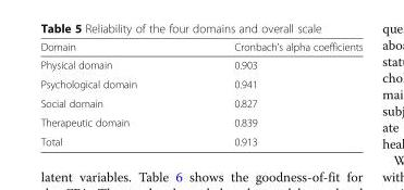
<table><thead><tr><td>Domain</td><td>Cronbach’s alpha coefficients</td></tr></thead><tbody><tr><td>Physical domain</td><td>0.903</td></tr><tr><td>Psychological domain</td><td>0.941</td></tr><tr><td>Social domain</td><td>0.827</td></tr><tr><td>Therapeutic domain</td><td>0.839</td></tr><tr><td>Total</td><td>0.913</td></tr></tbody></table>